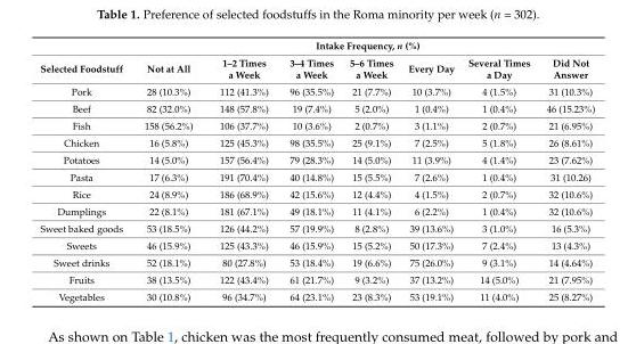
<table><thead><tr><td rowspan="2">Selected Foodstuff</td><td colspan="7">Intake Frequency, n (%)</td></tr><tr><td>Not at All</td><td>1–2 Times a Week</td><td>3–4 Times a Week</td><td>5–6 Times a Week</td><td>Every Day</td><td>Several Times a Day</td><td>Did Not Answer</td></tr></thead><tbody><tr><td>Pork</td><td>28 (10.3%)</td><td>112 (41.3%)</td><td>96 (35.5%)</td><td>21 (7.7%)</td><td>10 (3.7%)</td><td>4 (1.5%)</td><td>31 (10.3%)</td></tr><tr><td>Beef</td><td>82 (32.0%)</td><td>148 (57.8%)</td><td>19 (7.4%)</td><td>5 (2.0%)</td><td>1 (0.4%)</td><td>1 (0.4%)</td><td>46 (15.23%)</td></tr><tr><td>Fish</td><td>158 (56.2%)</td><td>106 (37.7%)</td><td>10 (3.6%)</td><td>2 (0.7%)</td><td>3 (1.1%)</td><td>2 (0.7%)</td><td>21 (6.95%)</td></tr><tr><td>Chicken</td><td>16 (5.8%)</td><td>125 (45.3%)</td><td>98 (35.5%)</td><td>25 (9.1%)</td><td>7 (2.5%)</td><td>5 (1.8%)</td><td>26 (8.61%)</td></tr><tr><td>Potatoes</td><td>14 (5.0%)</td><td>157 (56.4%)</td><td>79 (28.3%)</td><td>14 (5.0%)</td><td>11 (3.9%)</td><td>4 (1.4%)</td><td>23 (7.62%)</td></tr><tr><td>Pasta</td><td>17 (6.3%)</td><td>191 (70.4%)</td><td>40 (14.8%)</td><td>15 (5.5%)</td><td>7 (2.6%)</td><td>1 (0.4%)</td><td>31 (10.26)</td></tr><tr><td>Rice</td><td>24 (8.9%)</td><td>186 (68.9%)</td><td>42 (15.6%)</td><td>12 (4.4%)</td><td>4 (1.5%)</td><td>2 (0.7%)</td><td>32 (10.6%)</td></tr><tr><td>Dumplings</td><td>22 (8.1%)</td><td>181 (67.1%)</td><td>49 (18.1%)</td><td>11 (4.1%)</td><td>6 (2.2%)</td><td>1 (0.4%)</td><td>32 (10.6%)</td></tr><tr><td>Sweet baked goods</td><td>53 (18.5%)</td><td>126 (44.2%)</td><td>57 (19.9%)</td><td>8 (2.8%)</td><td>39 (13.6%)</td><td>3 (1.0%)</td><td>16 (5.3%)</td></tr><tr><td>Sweets</td><td>46 (15.9%)</td><td>125 (43.3%)</td><td>46 (15.9%)</td><td>15 (5.2%)</td><td>50 (17.3%)</td><td>7 (2.4%)</td><td>13 (4.3%)</td></tr><tr><td>Sweet drinks</td><td>52 (18.1%)</td><td>80 (27.8%)</td><td>53 (18.4%)</td><td>19 (6.6%)</td><td>75 (26.0%)</td><td>9 (3.1%)</td><td>14 (4.64%)</td></tr><tr><td>Fruits</td><td>38 (13.5%)</td><td>122 (43.4%)</td><td>61 (21.7%)</td><td>9 (3.2%)</td><td>37 (13.2%)</td><td>14 (5.0%)</td><td>21 (7.95%)</td></tr><tr><td>Vegetables</td><td>30 (10.8%)</td><td>96 (34.7%)</td><td>64 (23.1%)</td><td>23 (8.3%)</td><td>53 (19.1%)</td><td>11 (4.0%)</td><td>25 (8.27%)</td></tr></tbody></table>